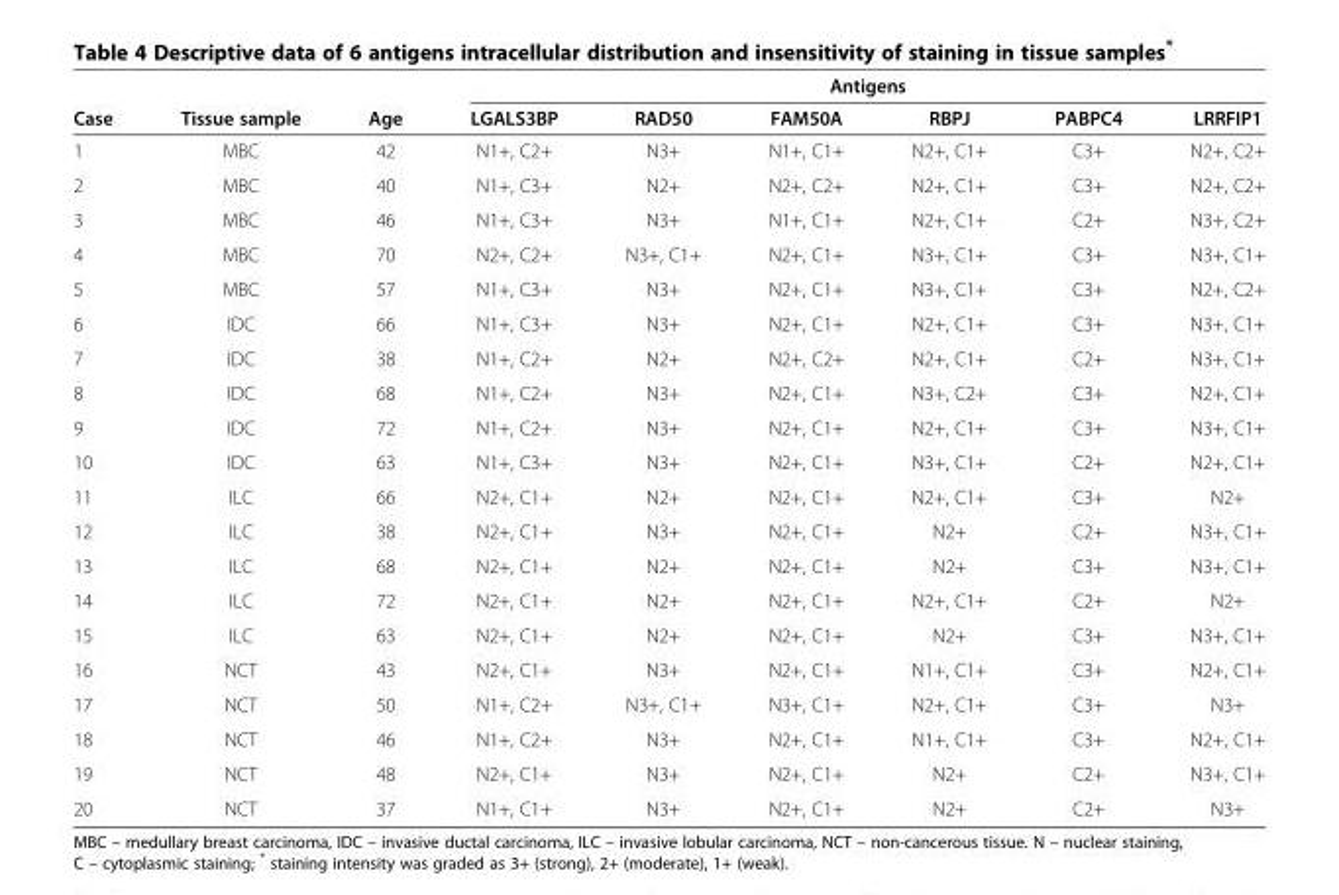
<table><thead><tr><td rowspan="2">Case</td><td rowspan="2">Tissue sample</td><td rowspan="2">Age</td><td colspan="6">Antigens</td></tr><tr><td>LGALS3BP</td><td>RAD50</td><td>FAM50A</td><td>RBPJ</td><td>PABPC4</td><td>LRRFIP1</td></tr></thead><tbody><tr><td>1</td><td>MBC</td><td>42</td><td>N1+, C2+</td><td>N3+</td><td>N1+, C1+</td><td>N2+, C1+</td><td>C3+</td><td>N2+, C2+</td></tr><tr><td>2</td><td>MBC</td><td>40</td><td>N1+, C3+</td><td>N2+</td><td>N2+, C2+</td><td>N2+, C1+</td><td>C3+</td><td>N2+, C2+</td></tr><tr><td>3</td><td>MBC</td><td>46</td><td>N1+, C3+</td><td>N3+</td><td>N1+, C1+</td><td>N2+, C1+</td><td>C2+</td><td>N3+, C2+</td></tr><tr><td>4</td><td>MBC</td><td>70</td><td>N2+, C2+</td><td>N3+, C1+</td><td>N2+, C1+</td><td>N3+, C1+</td><td>C3+</td><td>N3+, C1+</td></tr><tr><td>5</td><td>MBC</td><td>57</td><td>N1+, C3+</td><td>N3+</td><td>N2+, C1+</td><td>N3+, C1+</td><td>C3+</td><td>N2+, C2+</td></tr><tr><td>6</td><td>IDC</td><td>66</td><td>N1+, C3+</td><td>N3+</td><td>N2+, C1+</td><td>N2+, C1+</td><td>C3+</td><td>N3+, С1+</td></tr><tr><td>7</td><td>IDC</td><td>38</td><td>N1+, C2+</td><td>N2+</td><td>N2+, C2+</td><td>N2+, C1+</td><td>C2+</td><td>N3+, С1+</td></tr><tr><td>8</td><td>IDC</td><td>68</td><td>N1+, C2+</td><td>N3+</td><td>N2+, C1+</td><td>N3+, C2+</td><td>C3+</td><td>N2+, С1+</td></tr><tr><td>9</td><td>IDC</td><td>72</td><td>N1+, C2+</td><td>N3+</td><td>N2+, C1+</td><td>N2+, C1+</td><td>C3+</td><td>N3+, С1+</td></tr><tr><td>10</td><td>IDC</td><td>63</td><td>N1+, C3+</td><td>N3+</td><td>N2+, C1+</td><td>N3+, C1+</td><td>C2+</td><td>N2+, С1+</td></tr><tr><td>11</td><td>ILC</td><td>66</td><td>N2+, C1+</td><td>N2+</td><td>N2+, C1+</td><td>N2+, C1+</td><td>C3+</td><td>N2+</td></tr><tr><td>12</td><td>ILC</td><td>38</td><td>N2+, C1+</td><td>N3+</td><td>N2+, C1+</td><td>N2+</td><td>C2+</td><td>N3+, C1+</td></tr><tr><td>13</td><td>ILC</td><td>68</td><td>N2+, C1+</td><td>N2+</td><td>N2+, C1+</td><td>N2+</td><td>C3+</td><td>N3+, C1+</td></tr><tr><td>14</td><td>ILC</td><td>72</td><td>N2+, C1+</td><td>N2+</td><td>N2+, C1+</td><td>N2+, C1+</td><td>C2+</td><td>N2+</td></tr><tr><td>15</td><td>ILC</td><td>63</td><td>N2+, C1+</td><td>N2+</td><td>N2+, C1+</td><td>N2+</td><td>C3+</td><td>N3+, C1+</td></tr><tr><td>16</td><td>NCT</td><td>43</td><td>N2+, С1+</td><td>N3+</td><td>N2+, C1+</td><td>N1+, C1+</td><td>C3+</td><td>N2+, C1+</td></tr><tr><td>17</td><td>NCT</td><td>50</td><td>N1+, C2+</td><td>N3+, C1+</td><td>N3+, C1+</td><td>N2+, C1+</td><td>C3+</td><td>N3+</td></tr><tr><td>18</td><td>NCT</td><td>46</td><td>N1+, C2+</td><td>N3+</td><td>N2+, C1+</td><td>N1+, C1+</td><td>C3+</td><td>N2+, C1+</td></tr><tr><td>19</td><td>NCT</td><td>48</td><td>N2+, С1+</td><td>N3+</td><td>N2+, C1+</td><td>N2+</td><td>C2+</td><td>N3+, C1+</td></tr><tr><td>20</td><td>NCT</td><td>37</td><td>N1+, C1+</td><td>N3+</td><td>N2+, C1+</td><td>N2+</td><td>C2+</td><td>N3+</td></tr></tbody></table>